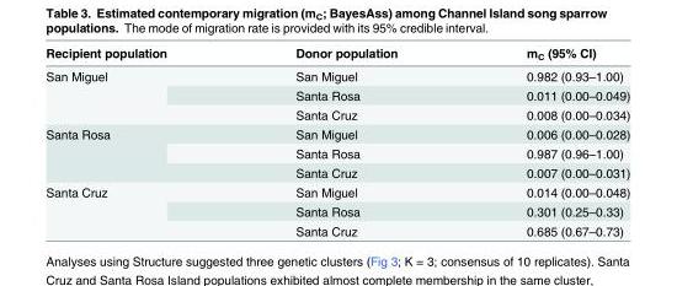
<table><thead><tr><td>Recipient population</td><td>Donor population</td><td>m<sub>C</sub> (95% CI)</td></tr></thead><tbody><tr><td rowspan="3">San Miguel</td><td>San Miguel</td><td>0.982 (0.93–1.00)</td></tr><tr><td>Santa Rosa</td><td>0.011 (0.00–0.049)</td></tr><tr><td>Santa Cruz</td><td>0.008 (0.00–0.034)</td></tr><tr><td rowspan="3">Santa Rosa</td><td>San Miguel</td><td>0.006 (0.00–0.028)</td></tr><tr><td>Santa Rosa</td><td>0.987 (0.96–1.00)</td></tr><tr><td>Santa Cruz</td><td>0.007 (0.00–0.031)</td></tr><tr><td rowspan="3">Santa Cruz</td><td>San Miguel</td><td>0.014 (0.00–0.048)</td></tr><tr><td>Santa Rosa</td><td>0.301 (0.25–0.33)</td></tr><tr><td>Santa Cruz</td><td>0.685 (0.67–0.73)</td></tr></tbody></table>